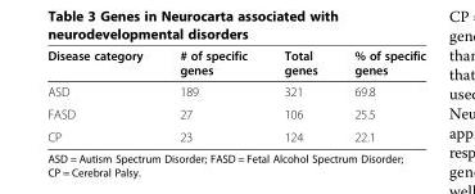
<table><thead><tr><td>Disease category</td><td># of specific genes</td><td>Total genes</td><td>% of specific genes</td></tr></thead><tbody><tr><td>ASD</td><td>189</td><td>321</td><td>69.8</td></tr><tr><td>FASD</td><td>27</td><td>106</td><td>25.5</td></tr><tr><td>CP</td><td>23</td><td>124</td><td>22.1</td></tr></tbody></table>